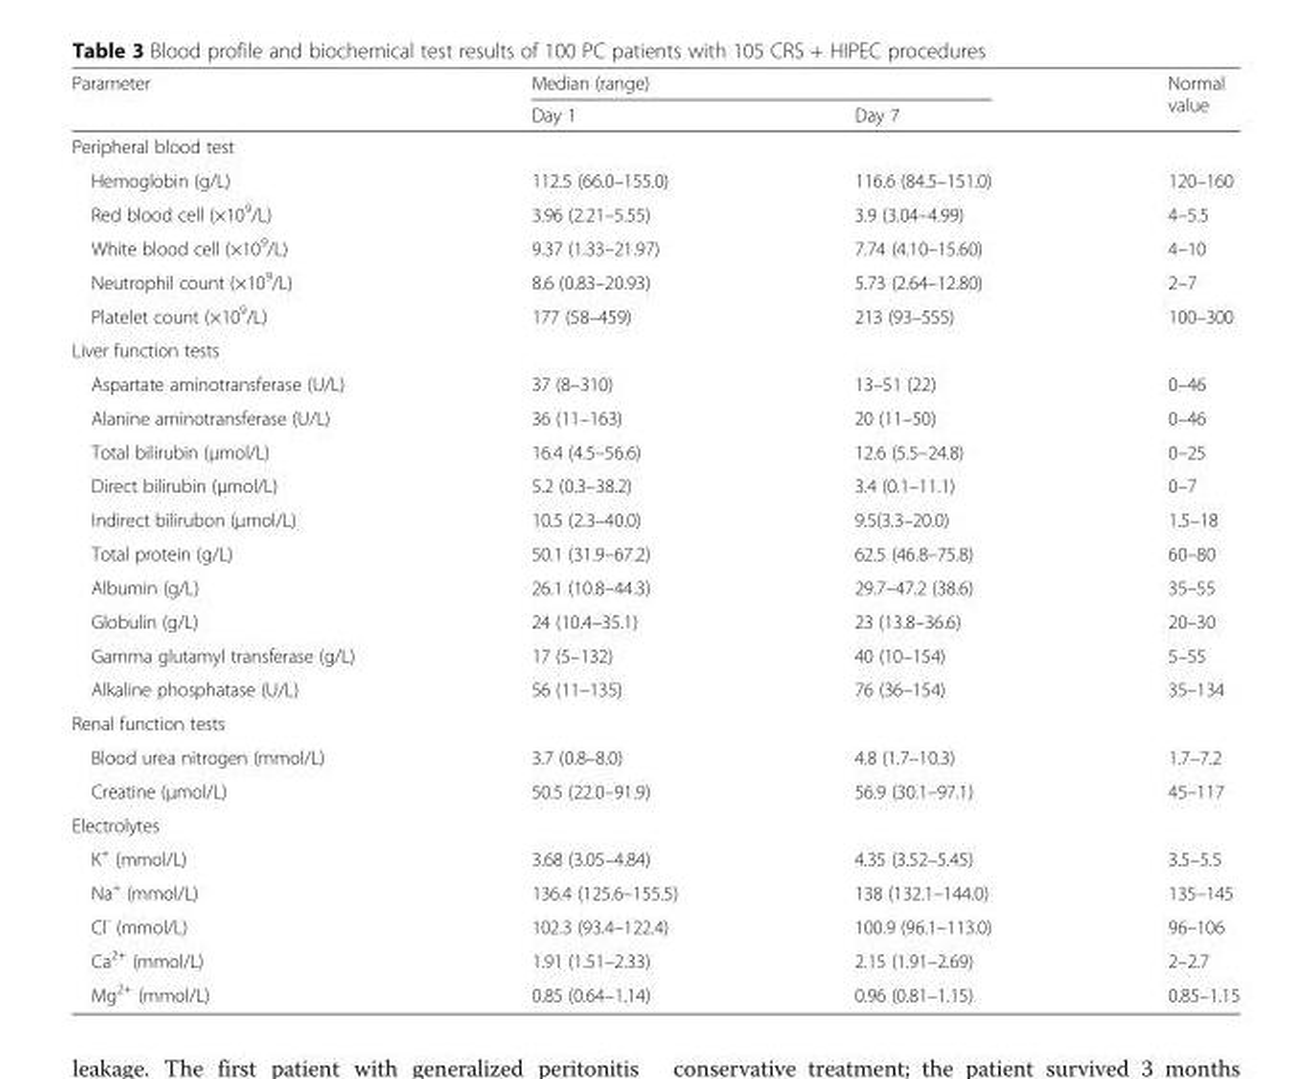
<table><thead><tr><td rowspan="2">Parameter</td><td colspan="2">Median (range)</td><td rowspan="2">Normal value</td></tr><tr><td>Day 1</td><td>Day 7</td></tr></thead><tbody><tr><td colspan="4">Peripheral blood test</td></tr><tr><td>Hemoglobin (g/L)</td><td>112.5 (66.0–155.0)</td><td>116.6 (84.5–151.0)</td><td>120–160</td></tr><tr><td>Red blood cell (×10<sup>9</sup>/L)</td><td>3.96 (2.21–5.55)</td><td>3.9 (3.04–4.99)</td><td>4–5.5</td></tr><tr><td>White blood cell (×10<sup>9</sup>/L)</td><td>9.37 (1.33–21.97)</td><td>7.74 (4.10–15.60)</td><td>4–10</td></tr><tr><td>Neutrophil count (×10<sup>9</sup>/L)</td><td>8.6 (0.83–20.93)</td><td>5.73 (2.64–12.80)</td><td>2–7</td></tr><tr><td>Platelet count (×10<sup>9</sup>/L)</td><td>177 (58–459)</td><td>213 (93–555)</td><td>100–300</td></tr><tr><td colspan="4">Liver function tests</td></tr><tr><td>Aspartate aminotransferase (U/L)</td><td>37 (8–310)</td><td>13–51 (22)</td><td>0–46</td></tr><tr><td>Alanine aminotransferase (U/L)</td><td>36 (11–163)</td><td>20 (11–50)</td><td>0–46</td></tr><tr><td>Total bilirubin (μmol/L)</td><td>16.4 (4.5–56.6)</td><td>12.6 (5.5–24.8)</td><td>0–25</td></tr><tr><td>Direct bilirubin (μmol/L)</td><td>5.2 (0.3–38.2)</td><td>3.4 (0.1–11.1)</td><td>0–7</td></tr><tr><td>Indirect bilirubon (μmol/L)</td><td>10.5 (2.3–40.0)</td><td>9.5(3.3–20.0)</td><td>1.5–18</td></tr><tr><td>Total protein (g/L)</td><td>50.1 (31.9–67.2)</td><td>62.5 (46.8–75.8)</td><td>60–80</td></tr><tr><td>Albumin (g/L)</td><td>26.1 (10.8–44.3)</td><td>29.7–47.2 (38.6)</td><td>35–55</td></tr><tr><td>Globulin (g/L)</td><td>24 (10.4–35.1)</td><td>23 (13.8–36.6)</td><td>20–30</td></tr><tr><td>Gamma glutamyl transferase (g/L)</td><td>17 (5–132)</td><td>40 (10–154)</td><td>5–55</td></tr><tr><td>Alkaline phosphatase (U/L)</td><td>56 (11–135)</td><td>76 (36–154)</td><td>35–134</td></tr><tr><td colspan="4">Renal function tests</td></tr><tr><td>Blood urea nitrogen (mmol/L)</td><td>3.7 (0.8–8.0)</td><td>4.8 (1.7–10.3)</td><td>1.7–7.2</td></tr><tr><td>Creatine (μmol/L)</td><td>50.5 (22.0–91.9)</td><td>56.9 (30.1–97.1)</td><td>45–117</td></tr><tr><td colspan="4">Electrolytes</td></tr><tr><td>K<sup>+</sup> (mmol/L)</td><td>3.68 (3.05–4.84)</td><td>4.35 (3.52–5.45)</td><td>3.5–5.5</td></tr><tr><td>Na<sup>+</sup> (mmol/L)</td><td>136.4 (125.6–155.5)</td><td>138 (132.1–144.0)</td><td>135–145</td></tr><tr><td>Cl<sup>-</sup> (mmol/L)</td><td>102.3 (93.4–122.4)</td><td>100.9 (96.1–113.0)</td><td>96–106</td></tr><tr><td>Ca<sup>2+</sup> (mmol/L)</td><td>1.91 (1.51–2.33)</td><td>2.15 (1.91–2.69)</td><td>2–2.7</td></tr><tr><td>Mg<sup>2+</sup> (mmol/L)</td><td>0.85 (0.64–1.14)</td><td>0.96 (0.81–1.15)</td><td>0.85–1.15</td></tr></tbody></table>